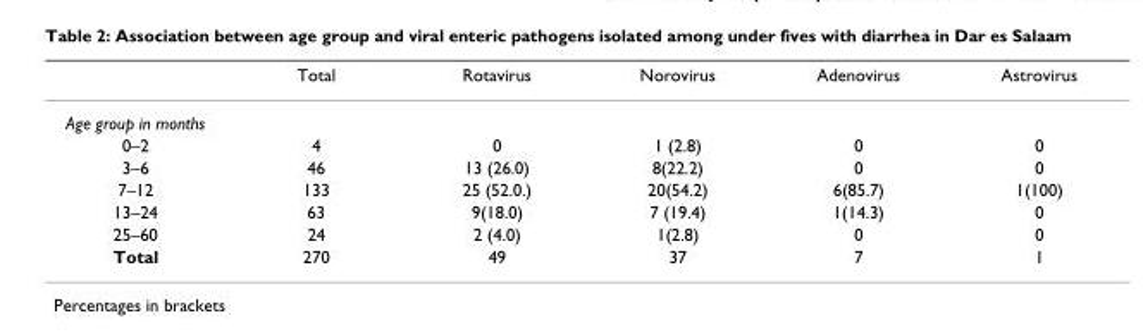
<table><thead><tr><td></td><td>Total</td><td>Rotavirus</td><td>Norovirus</td><td>Adenovirus</td><td>Astrovirus</td></tr></thead><tbody><tr><td colspan="6">Age group in months</td></tr><tr><td>0–2</td><td>4</td><td>0</td><td>1 (2.8)</td><td>0</td><td>0</td></tr><tr><td>3–6</td><td>46</td><td>13 (26.0)</td><td>8(22.2)</td><td>0</td><td>0</td></tr><tr><td>7–12</td><td>133</td><td>25 (52.0.)</td><td>20(54.2)</td><td>6(85.7)</td><td>1(100)</td></tr><tr><td>13–24</td><td>63</td><td>9(18.0)</td><td>7 (19.4)</td><td>1(14.3)</td><td>0</td></tr><tr><td>25–60</td><td>24</td><td>2 (4.0)</td><td>1(2.8)</td><td>0</td><td>0</td></tr><tr><td>Total</td><td>270</td><td>49</td><td>37</td><td>7</td><td>1</td></tr></tbody></table>